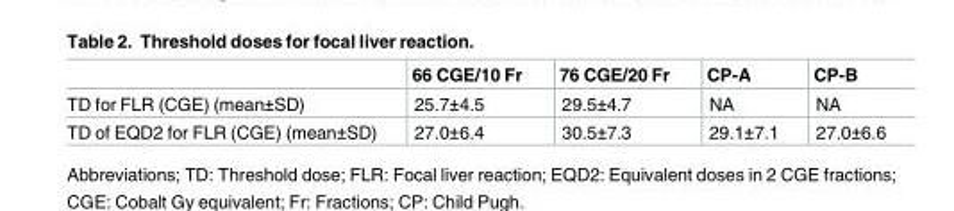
<table><thead><tr><td></td><td>66 CGE/10 Fr</td><td>76 CGE/20 Fr</td><td>CP-A</td><td>CP-B</td></tr></thead><tbody><tr><td>TD for FLR (CGE) (mean±SD)</td><td>25.7±4.5</td><td>29.5±4.7</td><td>NA</td><td>NA</td></tr><tr><td>TD of EQD2 for FLR (CGE) (mean±SD)</td><td>27.0±6.4</td><td>30.5±7.3</td><td>29.1±7.1</td><td>27.0±6.6</td></tr></tbody></table>